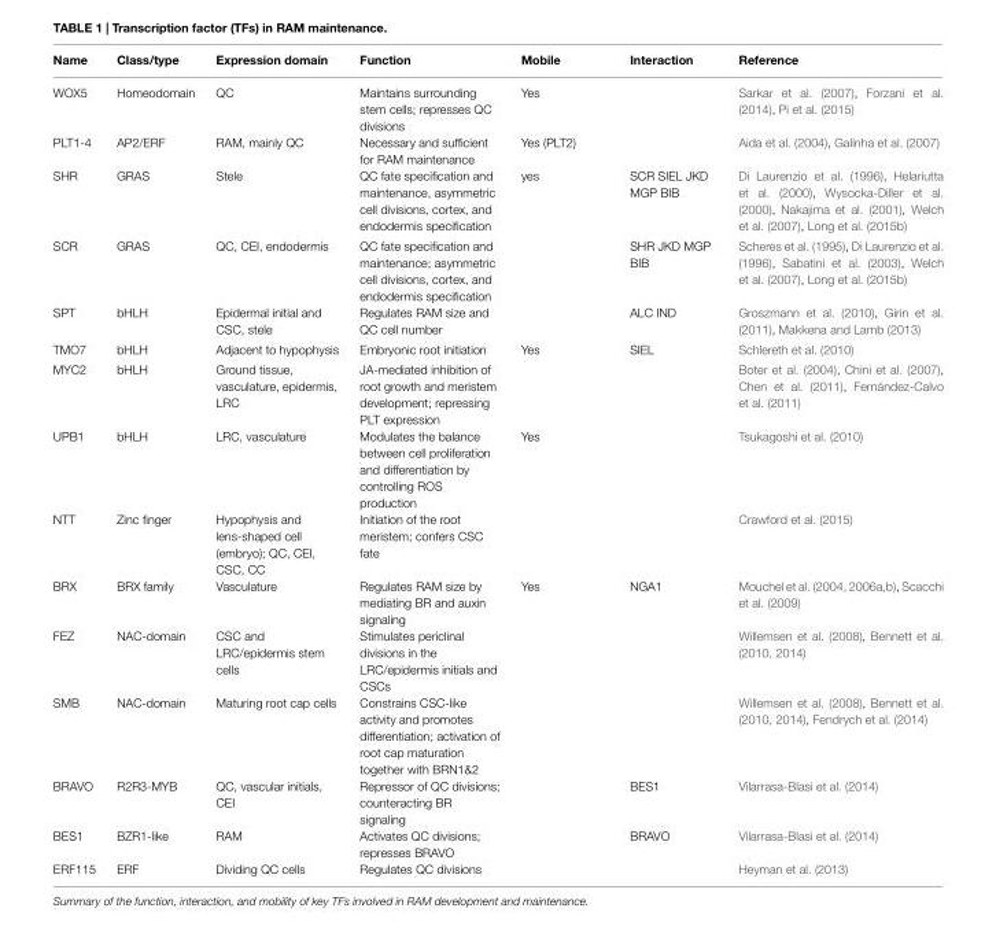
<table><thead><tr><td>Name</td><td>Class/type</td><td>Expression domain</td><td>Function</td><td>Mobile</td><td>Interaction</td><td>Reference</td></tr></thead><tbody><tr><td>WOX5</td><td>Homeodomain</td><td>QC</td><td>Maintains surrounding stem cells; represses QC divisions</td><td>Yes</td><td></td><td>Sarkar et al. (2007), Forzani et al. (2014), Pi et al. (2015)</td></tr><tr><td>PLT1-4</td><td>AP2/ERF</td><td>RAM, mainly QC</td><td>Necessary and sufficient for RAM maintenance</td><td>Yes (PLT2)</td><td></td><td>Aida et al. (2004), Galinha et al. (2007)</td></tr><tr><td>SHR</td><td>GRAS</td><td>Stele</td><td>QC fate specification and maintenance, asymmetric cell divisions, cortex, and endodermis specification</td><td>yes</td><td>SCR SIEL JKD MGP BIB</td><td>Di Laurenzio et al. (1996), Helariutta et al. (2000), Wysocka-Diller et al. (2000), Nakajima et al. (2001), Welch et al. (2007), Long et al. (2015b)</td></tr><tr><td>SCR</td><td>GRAS</td><td>QC, CEI, endodermis</td><td>QC fate specification and maintenance; asymmetric cell divisions, cortex, and endodermis specification</td><td></td><td>SHR JKD MGP BIB</td><td>Scheres et al. (1995), Di Laurenzio et al. (1996), Sabatini et al. (2003), Welch et al. (2007), Long et al. (2015b)</td></tr><tr><td>SPT</td><td>bHLH</td><td>Epidermal initial and CSC, stele</td><td>Regulates RAM size and QC cell number</td><td></td><td>ALC IND</td><td>Groszmann et al. (2010), Girin et al. (2011), Makkena and Lamb (2013)</td></tr><tr><td>TMO7</td><td>bHLH</td><td>Adjacent to hypophysis</td><td>Embryonic root initiation</td><td>Yes</td><td>SIEL</td><td>Schlereth et al. (2010)</td></tr><tr><td>MYC2</td><td>bHLH</td><td>Ground tissue, vasculature, epidermis, LRC</td><td>JA-mediated inhibition of root growth and meristem development; repressing PLT expression</td><td></td><td></td><td>Boter et al. (2004), Chini et al. (2007), Chen et al. (2011), Fernández-Calvo et al. (2011)</td></tr><tr><td>UPB1</td><td>bHLH</td><td>LRC, vasculature</td><td>Modulates the balance between cell proliferation and differentiation by controlling ROS production</td><td>Yes</td><td></td><td>Tsukagoshi et al. (2010)</td></tr><tr><td>NTT</td><td>Zinc finger</td><td>Hypophysis and lens-shaped cell (embryo); QC, CEI, CSC, CC</td><td>Initiation of the root meristem; confers CSC fate</td><td></td><td></td><td>Crawford et al. (2015)</td></tr><tr><td>BRX</td><td>BRX family</td><td>Vasculature</td><td>Regulates RAM size by mediating BR and auxin signaling</td><td>Yes</td><td>NGA1</td><td>Mouchel et al. (2004, 2006a,b), Scacchi et al. (2009)</td></tr><tr><td>FEZ</td><td>NAC-domain</td><td>CSC and LRC/epidermis stem cells</td><td>Stimulates periclinal divisions in the LRC/epidermis initials and CSCs</td><td></td><td></td><td>Willemsen et al. (2008), Bennett et al. (2010, 2014)</td></tr><tr><td>SMB</td><td>NAC-domain</td><td>Maturing root cap cells</td><td>Constrains CSC-like activity and promotes differentiation; activation of root cap maturation together with BRN1&amp;2</td><td></td><td></td><td>Willemsen et al. (2008), Bennett et al. (2010, 2014), Fendrych et al. (2014)</td></tr><tr><td>BRAVO</td><td>R2R3-MYB</td><td>QC, vascular initials, CEI</td><td>Repressor of QC divisions; counteracting BR signaling</td><td></td><td>BES1</td><td>Vilarrasa-Blasi et al. (2014)</td></tr><tr><td>BES1</td><td>BZR1-like</td><td>RAM</td><td>Activates QC divisions; represses BRAVO</td><td></td><td>BRAVO</td><td>Vilarrasa-Blasi et al. (2014)</td></tr><tr><td>ERF115</td><td>ERF</td><td>Dividing QC cells</td><td>Regulates QC divisions</td><td></td><td></td><td>Heyman et al. (2013)</td></tr></tbody></table>